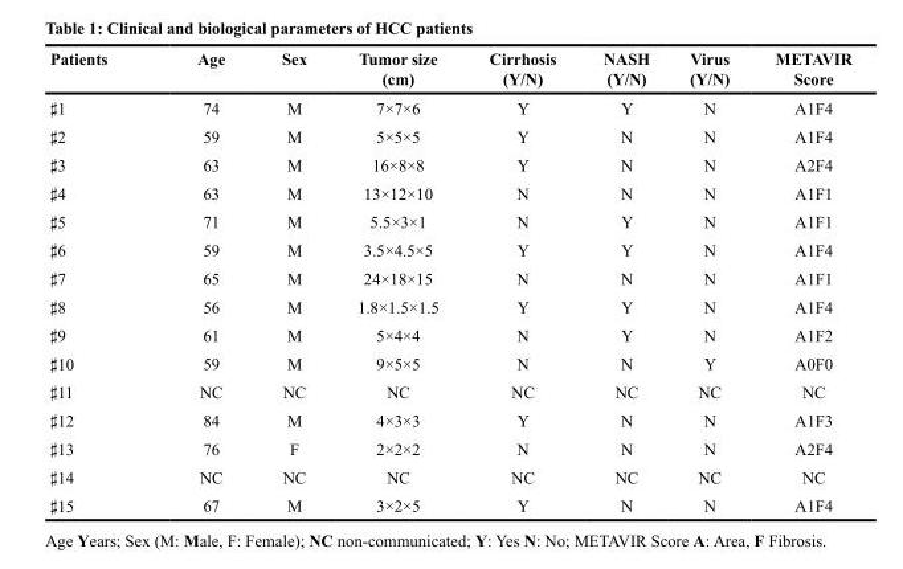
<table><thead><tr><td>Patients</td><td>Age</td><td>Sex</td><td>Tumor size (cm)</td><td>Cirrhosis (Y/N)</td><td>NASH (Y/N)</td><td>Virus (Y/N)</td><td>METAVIR Score</td></tr></thead><tbody><tr><td>♯1</td><td>74</td><td>M</td><td>7×7×6</td><td>Y</td><td>Y</td><td>N</td><td>A1F4</td></tr><tr><td>♯2</td><td>59</td><td>M</td><td>5×5×5</td><td>Y</td><td>N</td><td>N</td><td>A1F4</td></tr><tr><td>♯3</td><td>63</td><td>M</td><td>16×8×8</td><td>Y</td><td>N</td><td>N</td><td>A2F4</td></tr><tr><td>♯4</td><td>63</td><td>M</td><td>13×12×10</td><td>N</td><td>N</td><td>N</td><td>A1F1</td></tr><tr><td>♯5</td><td>71</td><td>M</td><td>5.5×3×1</td><td>N</td><td>Y</td><td>N</td><td>A1F1</td></tr><tr><td>♯6</td><td>59</td><td>M</td><td>3.5×4.5×5</td><td>Y</td><td>Y</td><td>N</td><td>A1F4</td></tr><tr><td>♯7</td><td>65</td><td>M</td><td>24×18×15</td><td>N</td><td>N</td><td>N</td><td>A1F1</td></tr><tr><td>♯8</td><td>56</td><td>M</td><td>1.8×1.5×1.5</td><td>Y</td><td>Y</td><td>N</td><td>A1F4</td></tr><tr><td>♯9</td><td>61</td><td>M</td><td>5×4×4</td><td>N</td><td>Y</td><td>N</td><td>A1F2</td></tr><tr><td>♯10</td><td>59</td><td>M</td><td>9×5×5</td><td>N</td><td>N</td><td>Y</td><td>A0F0</td></tr><tr><td>♯11</td><td>NC</td><td>NC</td><td>NC</td><td>NC</td><td>NC</td><td>NC</td><td>NC</td></tr><tr><td>♯12</td><td>84</td><td>M</td><td>4×3×3</td><td>Y</td><td>N</td><td>N</td><td>A1F3</td></tr><tr><td>♯13</td><td>76</td><td>F</td><td>2×2×2</td><td>N</td><td>N</td><td>N</td><td>A2F4</td></tr><tr><td>♯14</td><td>NC</td><td>NC</td><td>NC</td><td>NC</td><td>NC</td><td>NC</td><td>NC</td></tr><tr><td>♯15</td><td>67</td><td>M</td><td>3×2×5</td><td>Y</td><td>N</td><td>N</td><td>A1F4</td></tr></tbody></table>